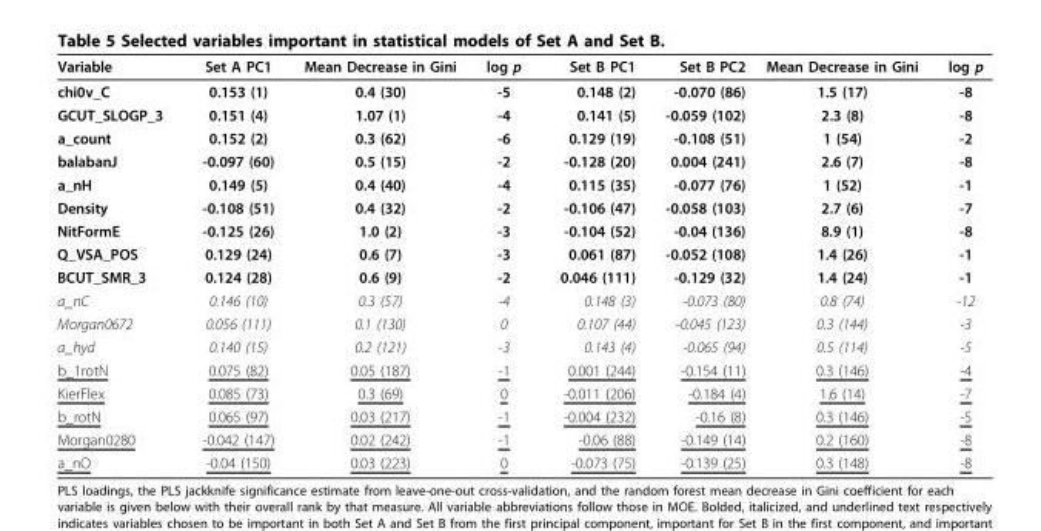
<table><thead><tr><td>Variable</td><td>Set A PC1</td><td>Mean Decrease in Gini</td><td>log p</td><td>Set B PC1</td><td>Set B PC2</td><td>Mean Decrease in Gini</td><td>log p</td></tr></thead><tbody><tr><td>chi0v_C</td><td>0.153 (1)</td><td>0.4 (30)</td><td>-5</td><td>0.148 (2)</td><td>-0.070 (86)</td><td>1.5 (17)</td><td>-8</td></tr><tr><td>GCUT_SLOGP_3</td><td>0.151 (4)</td><td>1.07 (1)</td><td>-4</td><td>0.141 (5)</td><td>-0.059 (102)</td><td>2.3 (8)</td><td>-8</td></tr><tr><td>a_count</td><td>0.152 (2)</td><td>0.3 (62)</td><td>-6</td><td>0.129 (19)</td><td>-0.108 (51)</td><td>1 (54)</td><td>-2</td></tr><tr><td>balabanJ</td><td>-0.097 (60)</td><td>0.5 (15)</td><td>-2</td><td>-0.128 (20)</td><td>0.004 (241)</td><td>2.6 (7)</td><td>-8</td></tr><tr><td>a_nH</td><td>0.149 (5)</td><td>0.4 (40)</td><td>-4</td><td>0.115 (35)</td><td>-0.077 (76)</td><td>1 (52)</td><td>-1</td></tr><tr><td>Density</td><td>-0.108 (51)</td><td>0.4 (32)</td><td>-2</td><td>-0.106 (47)</td><td>-0.058 (103)</td><td>2.7 (6)</td><td>-7</td></tr><tr><td>NitFormE</td><td>-0.125 (26)</td><td>1.0 (2)</td><td>-3</td><td>-0.104 (52)</td><td>-0.04 (136)</td><td>8.9 (1)</td><td>-8</td></tr><tr><td>Q_VSA_POS</td><td>0.129 (24)</td><td>0.6 (7)</td><td>-3</td><td>0.061 (87)</td><td>-0.052 (108)</td><td>1.4 (26)</td><td>-1</td></tr><tr><td>BCUT_SMR_3</td><td>0.124 (28)</td><td>0.6 (9)</td><td>-2</td><td>0.046 (111)</td><td>-0.129 (32)</td><td>1.4 (24)</td><td>-1</td></tr><tr><td>a_nC</td><td>0.146 (10)</td><td>0.3 (57)</td><td>-4</td><td>0.148 (3)</td><td>-0.073 (80)</td><td>0.8 (74)</td><td>-12</td></tr><tr><td>Morgan0672</td><td>0.056 (111)</td><td>0.1 (130)</td><td>0</td><td>0.107 (44)</td><td>-0.045 (123)</td><td>0.3 (144)</td><td>-3</td></tr><tr><td>a_hyd</td><td>0.140 (15)</td><td>0.2 (121)</td><td>-3</td><td>0.143 (4)</td><td>-0.065 (94)</td><td>0.5 (114)</td><td>-5</td></tr><tr><td>b_1rotN</td><td>0.075 (82)</td><td>0.05 (187)</td><td>-1</td><td>0.001 (244)</td><td>-0.154 (11)</td><td>0.3 (146)</td><td>-4</td></tr><tr><td>KierFlex</td><td>0.085 (73)</td><td>0.3 (69)</td><td>0</td><td>-0.011 (206)</td><td>-0.184 (4)</td><td>1.6 (14)</td><td>-7</td></tr><tr><td>b_rotN</td><td>0.065 (97)</td><td>0.03 (217)</td><td>-1</td><td>-0.004 (232)</td><td>-0.16 (8)</td><td>0.3 (146)</td><td>-5</td></tr><tr><td>Morgan0280</td><td>-0.042 (147)</td><td>0.02 (242)</td><td>-1</td><td>-0.06 (88)</td><td>-0.149 (14)</td><td>0.2 (160)</td><td>-8</td></tr><tr><td>a_nO</td><td>-0.04 (150)</td><td>0.03 (223)</td><td>0</td><td>-0.073 (75)</td><td>-0.139 (25)</td><td>0.3 (148)</td><td>-8</td></tr></tbody></table>